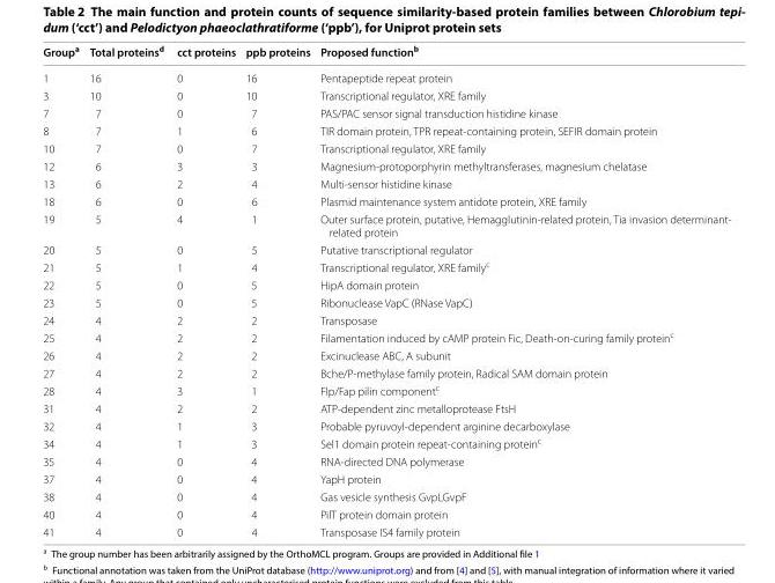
<table><thead><tr><td>Group<sup>a</sup></td><td>Total proteins<sup>d</sup></td><td>cct proteins</td><td>ppb proteins</td><td>Proposed function<sup>b</sup></td></tr></thead><tbody><tr><td>1</td><td>16</td><td>0</td><td>16</td><td>Pentapeptide repeat protein</td></tr><tr><td>3</td><td>10</td><td>0</td><td>10</td><td>Transcriptional regulator, XRE family</td></tr><tr><td>7</td><td>7</td><td>0</td><td>7</td><td>PAS/PAC sensor signal transduction histidine kinase</td></tr><tr><td>8</td><td>7</td><td>1</td><td>6</td><td>TIR domain protein, TPR repeat-containing protein, SEFIR domain protein</td></tr><tr><td>10</td><td>7</td><td>0</td><td>7</td><td>Transcriptional regulator, XRE family</td></tr><tr><td>12</td><td>6</td><td>3</td><td>3</td><td>Magnesium-protoporphyrin methyltransferases, magnesium chelatase</td></tr><tr><td>13</td><td>6</td><td>2</td><td>4</td><td>Multi-sensor histidine kinase</td></tr><tr><td>18</td><td>6</td><td>0</td><td>6</td><td>Plasmid maintenance system antidote protein, XRE family</td></tr><tr><td>19</td><td>5</td><td>4</td><td>1</td><td>Outer surface protein, putative, Hemagglutinin-related protein, Tia invasion determinant- related protein</td></tr><tr><td>20</td><td>5</td><td>0</td><td>5</td><td>Putative transcriptional regulator</td></tr><tr><td>21</td><td>5</td><td>1</td><td>4</td><td>Transcriptional regulator, XRE family<sup>c</sup></td></tr><tr><td>22</td><td>5</td><td>0</td><td>5</td><td>HipA domain protein</td></tr><tr><td>23</td><td>5</td><td>0</td><td>5</td><td>Ribonuclease VapC (RNase VapC)</td></tr><tr><td>24</td><td>4</td><td>2</td><td>2</td><td>Transposase</td></tr><tr><td>25</td><td>4</td><td>2</td><td>2</td><td>Filamentation induced by cAMP protein Fic, Death-on-curing family protein<sup>c</sup></td></tr><tr><td>26</td><td>4</td><td>2</td><td>2</td><td>Excinuclease ABC, A subunit</td></tr><tr><td>27</td><td>4</td><td>2</td><td>2</td><td>Bche/P-methylase family protein, Radical SAM domain protein</td></tr><tr><td>28</td><td>4</td><td>3</td><td>1</td><td>Flp/Fap pilin component<sup>c</sup></td></tr><tr><td>31</td><td>4</td><td>2</td><td>2</td><td>ATP-dependent zinc metalloprotease FtsH</td></tr><tr><td>32</td><td>4</td><td>1</td><td>3</td><td>Probable pyruvoyl-dependent arginine decarboxylase</td></tr><tr><td>34</td><td>4</td><td>1</td><td>3</td><td>Sel1 domain protein repeat-containing protein<sup>c</sup></td></tr><tr><td>35</td><td>4</td><td>0</td><td>4</td><td>RNA-directed DNA polymerase</td></tr><tr><td>37</td><td>4</td><td>0</td><td>4</td><td>YapH protein</td></tr><tr><td>38</td><td>4</td><td>0</td><td>4</td><td>Gas vesicle synthesis GvpLGvpF</td></tr><tr><td>40</td><td>4</td><td>0</td><td>4</td><td>PilT protein domain protein</td></tr><tr><td>41</td><td>4</td><td>0</td><td>4</td><td>Transposase IS4 family protein</td></tr></tbody></table>